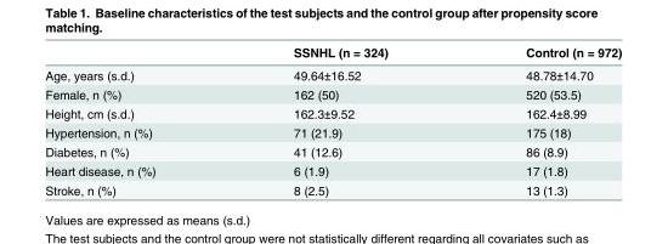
<table><thead><tr><td></td><td>SSNHL (n = 324)</td><td>Control (n = 972)</td></tr></thead><tbody><tr><td>Age, years (s.d.)</td><td>49.64±16.52</td><td>48.78±14.70</td></tr><tr><td>Female, n (%)</td><td>162 (50)</td><td>520 (53.5)</td></tr><tr><td>Height, cm (s.d.)</td><td>162.3±9.52</td><td>162.4±8.99</td></tr><tr><td>Hypertension, n (%)</td><td>71 (21.9)</td><td>175 (18)</td></tr><tr><td>Diabetes, n (%)</td><td>41 (12.6)</td><td>86 (8.9)</td></tr><tr><td>Heart disease, n (%)</td><td>6 (1.9)</td><td>17 (1.8)</td></tr><tr><td>Stroke, n (%)</td><td>8 (2.5)</td><td>13 (1.3)</td></tr></tbody></table>